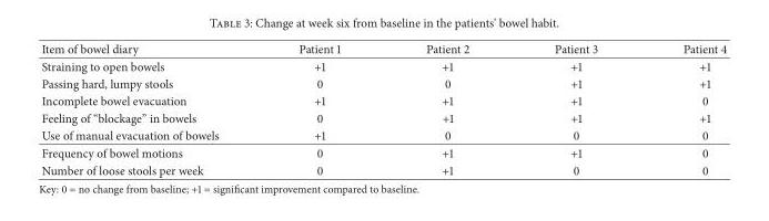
<table><thead><tr><td>Item of bowel diary</td><td>Patient 1</td><td>Patient 2</td><td>Patient 3</td><td>Patient 4</td></tr></thead><tbody><tr><td>Straining to open bowels</td><td>+1</td><td>+1</td><td>+1</td><td>+1</td></tr><tr><td>Passing hard, lumpy stools</td><td>0</td><td>0</td><td>+1</td><td>+1</td></tr><tr><td>Incomplete bowel evacuation</td><td>+1</td><td>+1</td><td>+1</td><td>0</td></tr><tr><td>Feeling of “blockage” in bowels</td><td>0</td><td>+1</td><td>+1</td><td>+1</td></tr><tr><td>Use of manual evacuation of bowels</td><td>+1</td><td>0</td><td>0</td><td>0</td></tr><tr><td>Frequency of bowel motions</td><td>0</td><td>+1</td><td>+1</td><td>0</td></tr><tr><td>Number of loose stools per week</td><td>0</td><td>+1</td><td>0</td><td>0</td></tr></tbody></table>